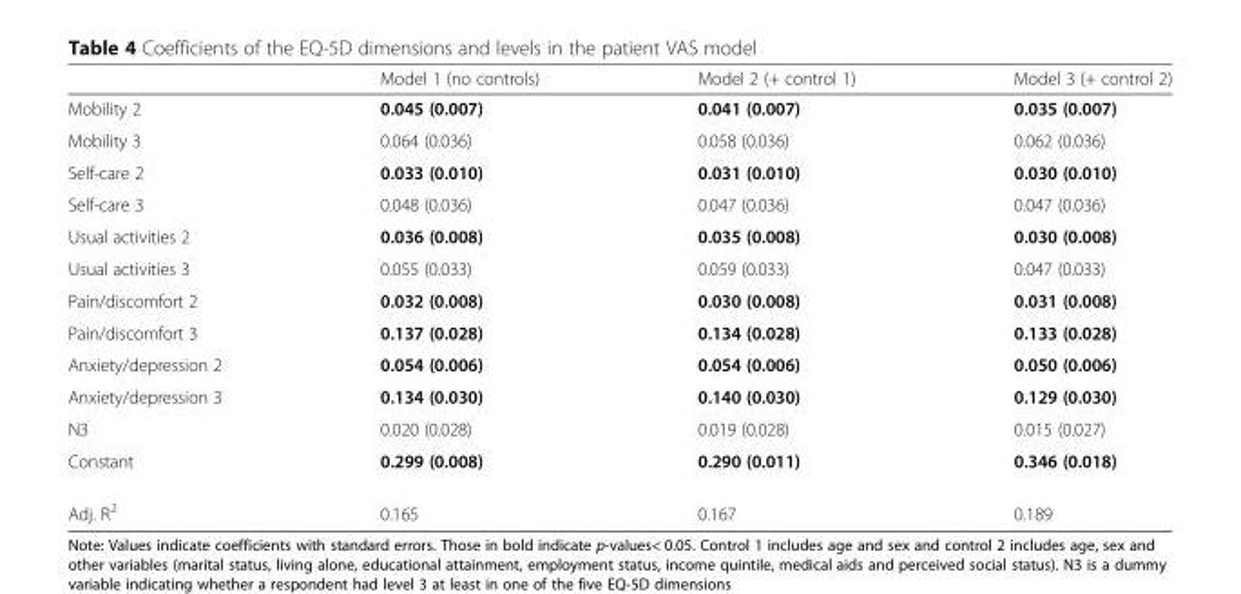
<table><thead><tr><td></td><td>Model 1 (no controls)</td><td>Model 2 (+ control 1)</td><td>Model 3 (+ control 2)</td></tr></thead><tbody><tr><td>Mobility 2</td><td>0.045 (0.007)</td><td>0.041 (0.007)</td><td>0.035 (0.007)</td></tr><tr><td>Mobility 3</td><td>0.064 (0.036)</td><td>0.058 (0.036)</td><td>0.062 (0.036)</td></tr><tr><td>Self-care 2</td><td>0.033 (0.010)</td><td>0.031 (0.010)</td><td>0.030 (0.010)</td></tr><tr><td>Self-care 3</td><td>0.048 (0.036)</td><td>0.047 (0.036)</td><td>0.047 (0.036)</td></tr><tr><td>Usual activities 2</td><td>0.036 (0.008)</td><td>0.035 (0.008)</td><td>0.030 (0.008)</td></tr><tr><td>Usual activities 3</td><td>0.055 (0.033)</td><td>0.059 (0.033)</td><td>0.047 (0.033)</td></tr><tr><td>Pain/discomfort 2</td><td>0.032 (0.008)</td><td>0.030 (0.008)</td><td>0.031 (0.008)</td></tr><tr><td>Pain/discomfort 3</td><td>0.137 (0.028)</td><td>0.134 (0.028)</td><td>0.133 (0.028)</td></tr><tr><td>Anxiety/depression 2</td><td>0.054 (0.006)</td><td>0.054 (0.006)</td><td>0.050 (0.006)</td></tr><tr><td>Anxiety/depression 3</td><td>0.134 (0.030)</td><td>0.140 (0.030)</td><td>0.129 (0.030)</td></tr><tr><td>N3</td><td>0.020 (0.028)</td><td>0.019 (0.028)</td><td>0.015 (0.027)</td></tr><tr><td>Constant</td><td>0.299 (0.008)</td><td>0.290 (0.011)</td><td>0.346 (0.018)</td></tr><tr><td>Adj. R<sup>2</sup></td><td>0.165</td><td>0.167</td><td>0.189</td></tr></tbody></table>